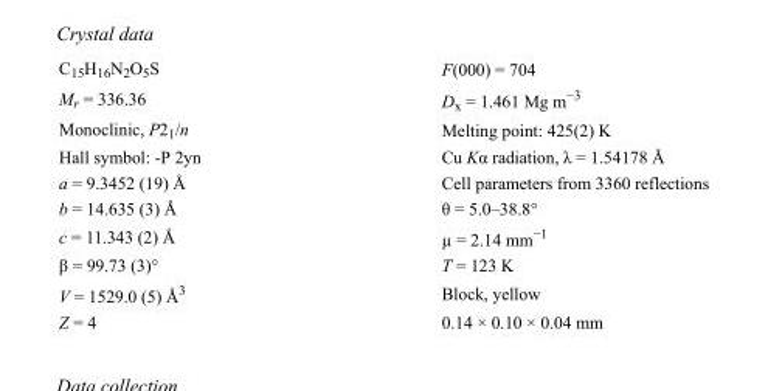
<table><tbody><tr><td>C<sub>15</sub>H<sub>16</sub>N<sub>2</sub>O<sub>5</sub>S</td><td>F(000) = 704</td></tr><tr><td>M<sub>r</sub> = 336.36</td><td>D<sub>x</sub> = 1.461 Mg m<sup>−3</sup></td></tr><tr><td>Monoclinic, P2<sub>1</sub>/n</td><td>Melting point: 425(2) K</td></tr><tr><td>Hall symbol: -P 2yn</td><td>Cu Kα radiation, λ = 1.54178 Å</td></tr><tr><td>a = 9.3452 (19) Å</td><td>Cell parameters from 3360 reflections</td></tr><tr><td>b = 14.635 (3) Å</td><td>θ = 5.0–38.8°</td></tr><tr><td>c = 11.343 (2) Å</td><td>µ = 2.14 mm<sup>−1</sup></td></tr><tr><td>β = 99.73 (3)°</td><td>T = 123 K</td></tr><tr><td>V = 1529.0 (5) Å<sup>3</sup></td><td>Block, yellow</td></tr><tr><td>Z = 4</td><td>0.14 × 0.10 × 0.04 mm</td></tr></tbody></table>